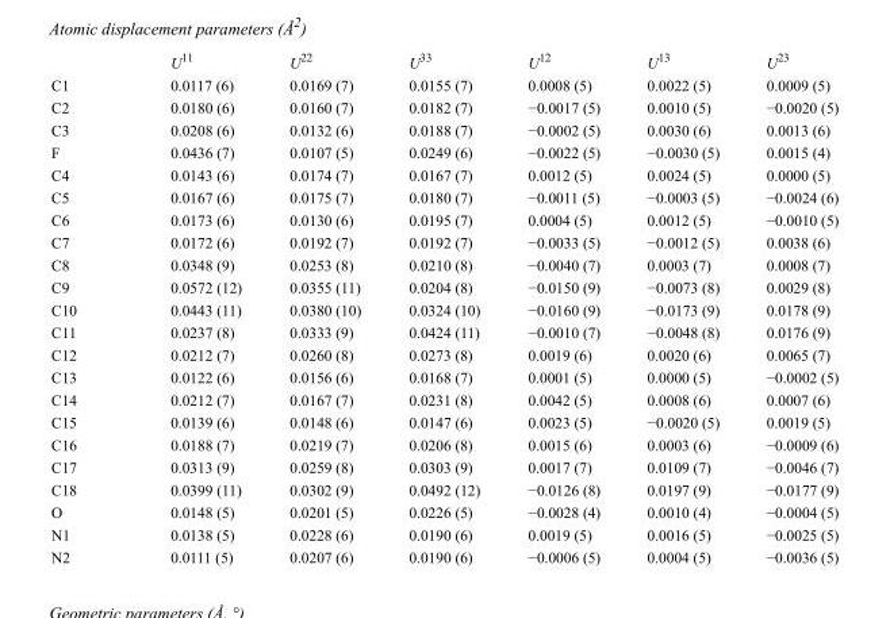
<table><thead><tr><td></td><td>U<sup>11</sup></td><td>U<sup>22</sup></td><td>U<sup>33</sup></td><td>U<sup>12</sup></td><td>U<sup>13</sup></td><td>U<sup>23</sup></td></tr></thead><tbody><tr><td>C1</td><td>0.0117 (6)</td><td>0.0169 (7)</td><td>0.0155 (7)</td><td>0.0008 (5)</td><td>0.0022 (5)</td><td>0.0009 (5)</td></tr><tr><td>C2</td><td>0.0180 (6)</td><td>0.0160 (7)</td><td>0.0182 (7)</td><td>−0.0017 (5)</td><td>0.0010 (5)</td><td>−0.0020 (5)</td></tr><tr><td>C3</td><td>0.0208 (6)</td><td>0.0132 (6)</td><td>0.0188 (7)</td><td>−0.0002 (5)</td><td>0.0030 (6)</td><td>0.0013 (6)</td></tr><tr><td>F</td><td>0.0436 (7)</td><td>0.0107 (5)</td><td>0.0249 (6)</td><td>−0.0022 (5)</td><td>−0.0030 (5)</td><td>0.0015 (4)</td></tr><tr><td>C4</td><td>0.0143 (6)</td><td>0.0174 (7)</td><td>0.0167 (7)</td><td>0.0012 (5)</td><td>0.0024 (5)</td><td>0.0000 (5)</td></tr><tr><td>C5</td><td>0.0167 (6)</td><td>0.0175 (7)</td><td>0.0180 (7)</td><td>−0.0011 (5)</td><td>−0.0003 (5)</td><td>−0.0024 (6)</td></tr><tr><td>C6</td><td>0.0173 (6)</td><td>0.0130 (6)</td><td>0.0195 (7)</td><td>0.0004 (5)</td><td>0.0012 (5)</td><td>−0.0010 (5)</td></tr><tr><td>C7</td><td>0.0172 (6)</td><td>0.0192 (7)</td><td>0.0192 (7)</td><td>−0.0033 (5)</td><td>−0.0012 (5)</td><td>0.0038 (6)</td></tr><tr><td>C8</td><td>0.0348 (9)</td><td>0.0253 (8)</td><td>0.0210 (8)</td><td>−0.0040 (7)</td><td>0.0003 (7)</td><td>0.0008 (7)</td></tr><tr><td>C9</td><td>0.0572 (12)</td><td>0.0355 (11)</td><td>0.0204 (8)</td><td>−0.0150 (9)</td><td>−0.0073 (8)</td><td>0.0029 (8)</td></tr><tr><td>C10</td><td>0.0443 (11)</td><td>0.0380 (10)</td><td>0.0324 (10)</td><td>−0.0160 (9)</td><td>−0.0173 (9)</td><td>0.0178 (9)</td></tr><tr><td>C11</td><td>0.0237 (8)</td><td>0.0333 (9)</td><td>0.0424 (11)</td><td>−0.0010 (7)</td><td>−0.0048 (8)</td><td>0.0176 (9)</td></tr><tr><td>C12</td><td>0.0212 (7)</td><td>0.0260 (8)</td><td>0.0273 (8)</td><td>0.0019 (6)</td><td>0.0020 (6)</td><td>0.0065 (7)</td></tr><tr><td>C13</td><td>0.0122 (6)</td><td>0.0156 (6)</td><td>0.0168 (7)</td><td>0.0001 (5)</td><td>0.0000 (5)</td><td>−0.0002 (5)</td></tr><tr><td>C14</td><td>0.0212 (7)</td><td>0.0167 (7)</td><td>0.0231 (8)</td><td>0.0042 (5)</td><td>0.0008 (6)</td><td>0.0007 (6)</td></tr><tr><td>C15</td><td>0.0139 (6)</td><td>0.0148 (6)</td><td>0.0147 (6)</td><td>0.0023 (5)</td><td>−0.0020 (5)</td><td>0.0019 (5)</td></tr><tr><td>C16</td><td>0.0188 (7)</td><td>0.0219 (7)</td><td>0.0206 (8)</td><td>0.0015 (6)</td><td>0.0003 (6)</td><td>−0.0009 (6)</td></tr><tr><td>C17</td><td>0.0313 (9)</td><td>0.0259 (8)</td><td>0.0303 (9)</td><td>0.0017 (7)</td><td>0.0109 (7)</td><td>−0.0046 (7)</td></tr><tr><td>C18</td><td>0.0399 (11)</td><td>0.0302 (9)</td><td>0.0492 (12)</td><td>−0.0126 (8)</td><td>0.0197 (9)</td><td>−0.0177 (9)</td></tr><tr><td>O</td><td>0.0148 (5)</td><td>0.0201 (5)</td><td>0.0226 (5)</td><td>−0.0028 (4)</td><td>0.0010 (4)</td><td>−0.0004 (5)</td></tr><tr><td>N1</td><td>0.0138 (5)</td><td>0.0228 (6)</td><td>0.0190 (6)</td><td>0.0019 (5)</td><td>0.0016 (5)</td><td>−0.0025 (5)</td></tr><tr><td>N2</td><td>0.0111 (5)</td><td>0.0207 (6)</td><td>0.0190 (6)</td><td>−0.0006 (5)</td><td>0.0004 (5)</td><td>−0.0036 (5)</td></tr></tbody></table>